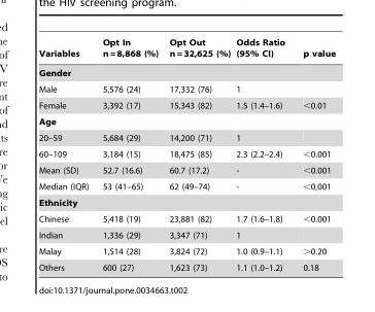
<table><thead><tr><td>Variables</td><td>Opt In n = 8,868 (%)</td><td>Opt Out n = 32,625 (%)</td><td>Odds Ratio (95% CI)</td><td>p value</td></tr></thead><tbody><tr><td colspan="5">Gender</td></tr><tr><td>Male</td><td>5,576 (24)</td><td>17,332 (76)</td><td>1</td><td></td></tr><tr><td>Female</td><td>3,392 (17)</td><td>15,343 (82)</td><td>1.5 (1.4–1.6)</td><td>&lt;0.01</td></tr><tr><td colspan="5">Age</td></tr><tr><td>20–59</td><td>5,684 (29)</td><td>14,200 (71)</td><td>1</td><td></td></tr><tr><td>60–109</td><td>3,184 (15)</td><td>18,475 (85)</td><td>2.3 (2.2–2.4)</td><td>&lt;0.001</td></tr><tr><td>Mean (SD)</td><td>52.7 (16.6)</td><td>60.7 (17.2)</td><td>-</td><td>&lt;0.001</td></tr><tr><td>Median (IQR)</td><td>53 (41–65)</td><td>62 (49–74)</td><td>-</td><td>&lt;0,001</td></tr><tr><td colspan="5">Ethnicity</td></tr><tr><td>Chinese</td><td>5,418 (19)</td><td>23,881 (82)</td><td>1.7 (1.6–1.8)</td><td>&lt;0.001</td></tr><tr><td>Indian</td><td>1,336 (29)</td><td>3,347 (71)</td><td>1</td><td></td></tr><tr><td>Malay</td><td>1,514 (28)</td><td>3,824 (72)</td><td>1.0 (0.9–1.1)</td><td>&gt;0.20</td></tr><tr><td>Others</td><td>600 (27)</td><td>1,623 (73)</td><td>1.1 (1.0–1.2)</td><td>0.18</td></tr></tbody></table>